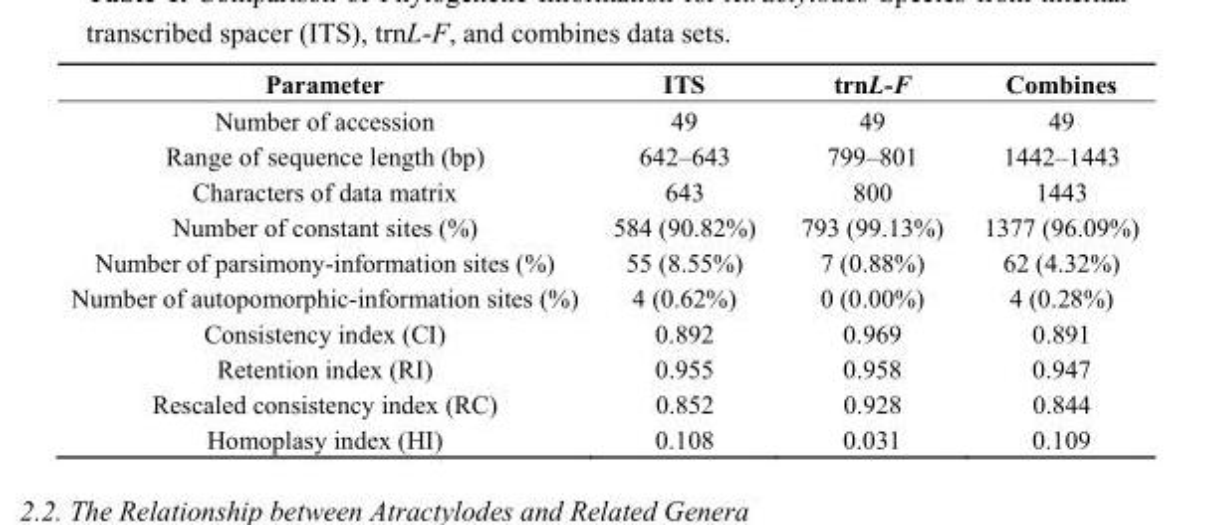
<table><thead><tr><td>Parameter</td><td>ITS</td><td>trnL-F</td><td>Combines</td></tr></thead><tbody><tr><td>Number of accession</td><td>49</td><td>49</td><td>49</td></tr><tr><td>Range of sequence length (bp)</td><td>642–643</td><td>799–801</td><td>1442–1443</td></tr><tr><td>Characters of data matrix</td><td>643</td><td>800</td><td>1443</td></tr><tr><td>Number of constant sites (%)</td><td>584 (90.82%)</td><td>793 (99.13%)</td><td>1377 (96.09%)</td></tr><tr><td>Number of parsimony-information sites (%)</td><td>55 (8.55%)</td><td>7 (0.88%)</td><td>62 (4.32%)</td></tr><tr><td>Number of autopomorphic-information sites (%)</td><td>4 (0.62%)</td><td>0 (0.00%)</td><td>4 (0.28%)</td></tr><tr><td>Consistency index (CI)</td><td>0.892</td><td>0.969</td><td>0.891</td></tr><tr><td>Retention index (RI)</td><td>0.955</td><td>0.958</td><td>0.947</td></tr><tr><td>Rescaled consistency index (RC)</td><td>0.852</td><td>0.928</td><td>0.844</td></tr><tr><td>Homoplasy index (HI)</td><td>0.108</td><td>0.031</td><td>0.109</td></tr></tbody></table>